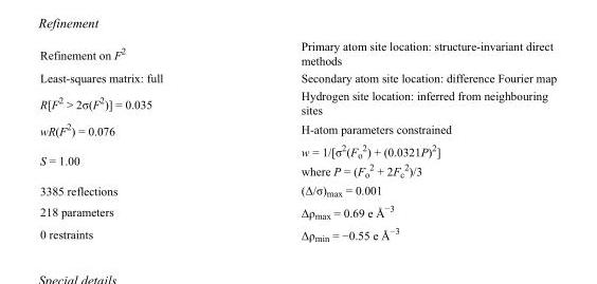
<table><tbody><tr><td>Refinement on F<sup>2</sup></td><td>Primary atom site location: structure-invariant direct methods</td></tr><tr><td>Least-squares matrix: full</td><td>Secondary atom site location: difference Fourier map</td></tr><tr><td>R[F<sup>2</sup> &gt; 2σ(F<sup>2</sup>)] = 0.035</td><td>Hydrogen site location: inferred from neighbouring sites</td></tr><tr><td>wR(F<sup>2</sup>) = 0.076</td><td>H-atom parameters constrained</td></tr><tr><td>S = 1.00</td><td>w = 1/[σ<sup>2</sup>(F<sub>o</sub> <sup>2</sup>) + (0.0321P)<sup>2</sup>] where P = (F<sub>o</sub> <sup>2</sup> + 2F<sub>c</sub> <sup>2</sup>)/3</td></tr><tr><td>3385 reflections</td><td>(Δ/σ)<sub>max</sub> = 0.001</td></tr><tr><td>218 parameters</td><td>Δρ<sub>max</sub> = 0.69 e Å<sup>−3</sup></td></tr><tr><td>0 restraints</td><td>Δρ<sub>min</sub> = −0.55 e Å<sup>−3</sup></td></tr></tbody></table>